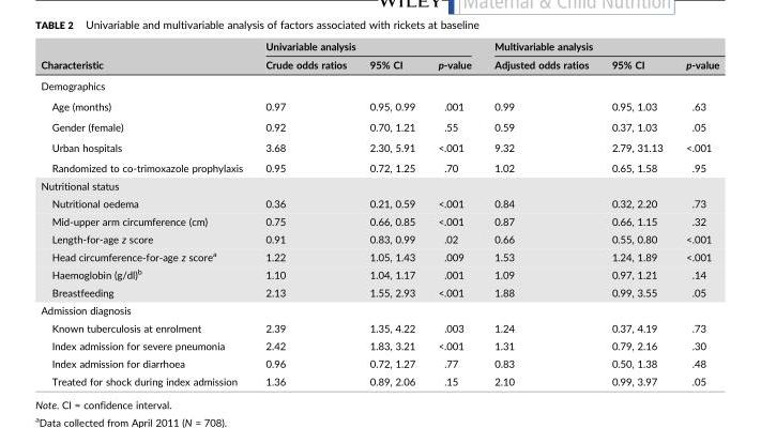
<table><thead><tr><td rowspan="2">Characteristic</td><td colspan="3">Univariable analysis</td><td colspan="3">Multivariable analysis</td></tr><tr><td>Crude odds ratios</td><td>95% CI</td><td>p‐value</td><td>Adjusted odds ratios</td><td>95% CI</td><td>p‐value</td></tr></thead><tbody><tr><td colspan="7">Demographics</td></tr><tr><td>Age (months)</td><td>0.97</td><td>0.95, 0.99</td><td>.001</td><td>0.99</td><td>0.95, 1.03</td><td>.63</td></tr><tr><td>Gender (female)</td><td>0.92</td><td>0.70, 1.21</td><td>.55</td><td>0.59</td><td>0.37, 1.03</td><td>.05</td></tr><tr><td>Urban hospitals</td><td>3.68</td><td>2.30, 5.91</td><td>&lt;.001</td><td>9.32</td><td>2.79, 31.13</td><td>&lt;.001</td></tr><tr><td>Randomized to co‐trimoxazole prophylaxis</td><td>0.95</td><td>0.72, 1.25</td><td>.70</td><td>1.02</td><td>0.65, 1.58</td><td>.95</td></tr><tr><td colspan="7">Nutritional status</td></tr><tr><td>Nutritional oedema</td><td>0.36</td><td>0.21, 0.59</td><td>&lt;.001</td><td>0.84</td><td>0.32, 2.20</td><td>.73</td></tr><tr><td>Mid‐upper arm circumference (cm)</td><td>0.75</td><td>0.66, 0.85</td><td>&lt;.001</td><td>0.87</td><td>0.66, 1.15</td><td>.32</td></tr><tr><td>Length‐for‐age z score</td><td>0.91</td><td>0.83, 0.99</td><td>.02</td><td>0.66</td><td>0.55, 0.80</td><td>&lt;.001</td></tr><tr><td>Head circumference‐for‐age z score<sup>a</sup></td><td>1.22</td><td>1.05, 1.43</td><td>.009</td><td>1.53</td><td>1.24, 1.89</td><td>&lt;.001</td></tr><tr><td>Haemoglobin (g/dl)<sup>b</sup></td><td>1.10</td><td>1.04, 1.17</td><td>.001</td><td>1.09</td><td>0.97, 1.21</td><td>.14</td></tr><tr><td>Breastfeeding</td><td>2.13</td><td>1.55, 2.93</td><td>&lt;.001</td><td>1.88</td><td>0.99, 3.55</td><td>.05</td></tr><tr><td colspan="7">Admission diagnosis</td></tr><tr><td>Known tuberculosis at enrolment</td><td>2.39</td><td>1.35, 4.22</td><td>.003</td><td>1.24</td><td>0.37, 4.19</td><td>.73</td></tr><tr><td>Index admission for severe pneumonia</td><td>2.42</td><td>1.83, 3.21</td><td>&lt;.001</td><td>1.31</td><td>0.79, 2.16</td><td>.30</td></tr><tr><td>Index admission for diarrhoea</td><td>0.96</td><td>0.72, 1.27</td><td>.77</td><td>0.83</td><td>0.50, 1.38</td><td>.48</td></tr><tr><td>Treated for shock during index admission</td><td>1.36</td><td>0.89, 2.06</td><td>.15</td><td>2.10</td><td>0.99, 3.97</td><td>.05</td></tr></tbody></table>